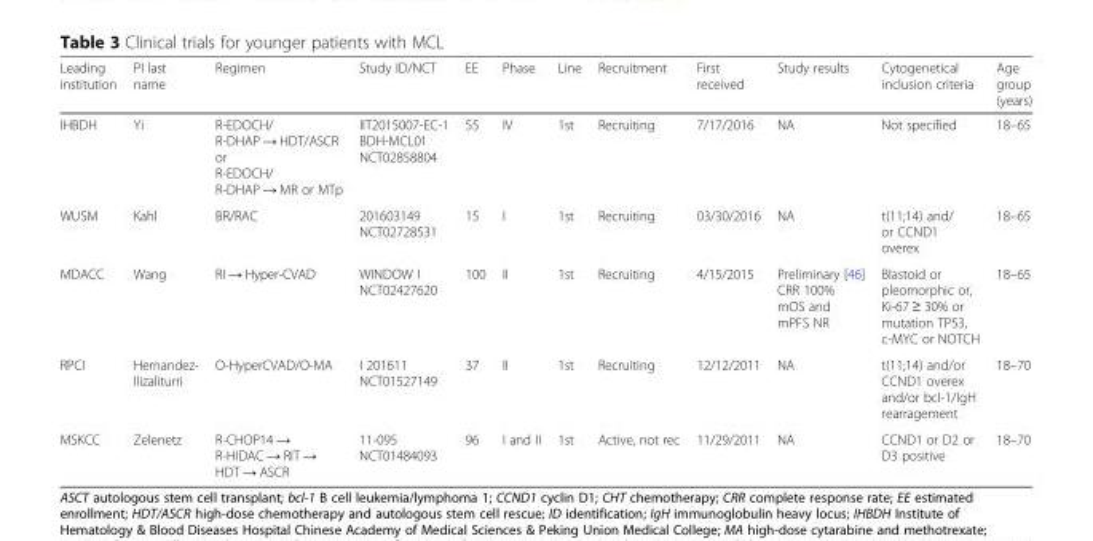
<table><thead><tr><td>Leading institution</td><td>PI last name</td><td>Regimen</td><td>Study ID/NCT</td><td>EE</td><td>Phase</td><td>Line</td><td>Recruitment</td><td>First received</td><td>Study results</td><td>Cytogenetical inclusion criteria</td><td>Age group (years)</td></tr></thead><tbody><tr><td>IHBDH</td><td>Yi</td><td>R-EDOCH/ R-DHAP → HDT/ASCR or R-EDOCH/ R-DHAP → MR or MTp</td><td>IIT2015007-EC-1 BDH-MCL01 NCT02858804</td><td>55</td><td>IV</td><td>1st</td><td>Recruiting</td><td>7/17/2016</td><td>NA</td><td>Not specified</td><td>18–65</td></tr><tr><td>WUSM</td><td>Kahl</td><td>BR/RAC</td><td>201603149 NCT02728531</td><td>15</td><td>I</td><td>1st</td><td>Recruiting</td><td>03/30/2016</td><td>NA</td><td>t(11;14) and/ or CCND1 overex</td><td>18–65</td></tr><tr><td>MDACC</td><td>Wang</td><td>RI → Hyper-CVAD</td><td>WINDOW I NCT02427620</td><td>100</td><td>II</td><td>1st</td><td>Recruiting</td><td>4/15/2015</td><td>Preliminary [46] CRR 100% mOS and mPFS NR</td><td>Blastoid or pleomorphic or, Ki-67 ≥ 30% or mutation TP53, c-MYC or NOTCH</td><td>18–65</td></tr><tr><td>RPCI</td><td>Hernandez- Ilizaliturri</td><td>O-HyperCVAD/O-MA</td><td>I 201611 NCT01527149</td><td>37</td><td>II</td><td>1st</td><td>Recruiting</td><td>12/12/2011</td><td>NA</td><td>t(11;14) and/or CCND1 overex and/or bcl-1/IgH rearragement</td><td>18–70</td></tr><tr><td>MSKCC</td><td>Zelenetz</td><td>R-CHOP14 → R-HIDAC → RIT → HDT → ASCR</td><td>11-095 NCT01484093</td><td>96</td><td>I and II</td><td>1st</td><td>Active, not rec</td><td>11/29/2011</td><td>NA</td><td>CCND1 or D2 or D3 positive</td><td>18–70</td></tr></tbody></table>